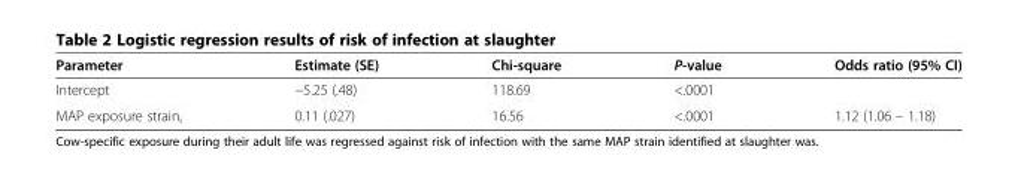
<table><thead><tr><td>Parameter</td><td>Estimate (SE)</td><td>Chi-square</td><td>P-value</td><td>Odds ratio (95% CI)</td></tr></thead><tbody><tr><td>Intercept</td><td>−5.25 (.48)</td><td>118.69</td><td>&lt;.0001</td><td></td></tr><tr><td>MAP exposure strain<sub>i</sub></td><td>0.11 (.027)</td><td>16.56</td><td>&lt;.0001</td><td>1.12 (1.06 – 1.18)</td></tr></tbody></table>